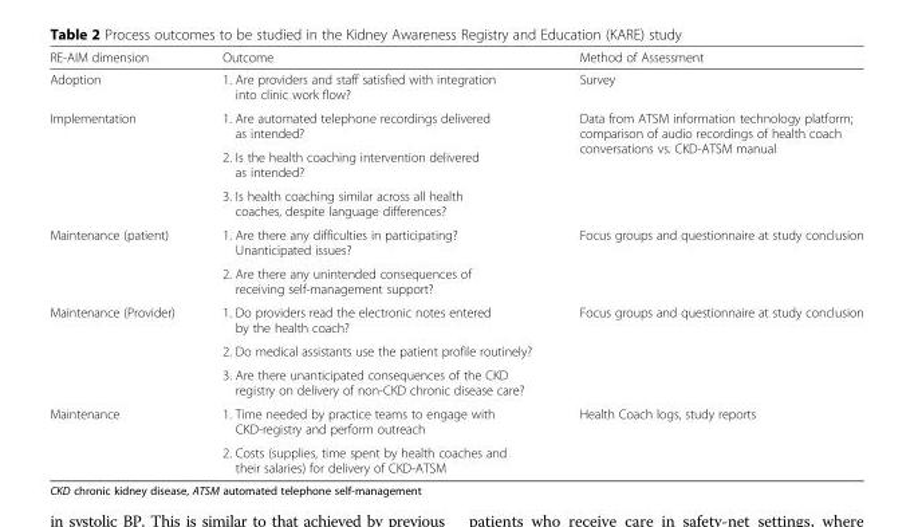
<table><thead><tr><td>RE-AIM dimension</td><td>Outcome</td><td>Method of Assessment</td></tr></thead><tbody><tr><td>Adoption</td><td>1. Are providers and staff satisfied with integration into clinic work flow?</td><td>Survey</td></tr><tr><td rowspan="3">Implementation</td><td>1. Are automated telephone recordings delivered as intended?</td><td rowspan="3">Data from ATSM information technology platform; comparison of audio recordings of health coach conversations vs. CKD-ATSM manual</td></tr><tr><td>2. Is the health coaching intervention delivered as intended?</td></tr><tr><td>3. Is health coaching similar across all health coaches, despite language differences?</td></tr><tr><td rowspan="2">Maintenance (patient)</td><td>1. Are there any difficulties in participating? Unanticipated issues?</td><td rowspan="2">Focus groups and questionnaire at study conclusion</td></tr><tr><td>2. Are there any unintended consequences of receiving self-management support?</td></tr><tr><td rowspan="3">Maintenance (Provider)</td><td>1. Do providers read the electronic notes entered by the health coach?</td><td rowspan="3">Focus groups and questionnaire at study conclusion</td></tr><tr><td>2. Do medical assistants use the patient profile routinely?</td></tr><tr><td>3. Are there unanticipated consequences of the CKD registry on delivery of non-CKD chronic disease care?</td></tr><tr><td rowspan="2">Maintenance</td><td>1. Time needed by practice teams to engage with CKD-registry and perform outreach</td><td rowspan="2">Health Coach logs, study reports</td></tr><tr><td>2. Costs (supplies, time spent by health coaches and their salaries) for delivery of CKD-ATSM</td></tr></tbody></table>